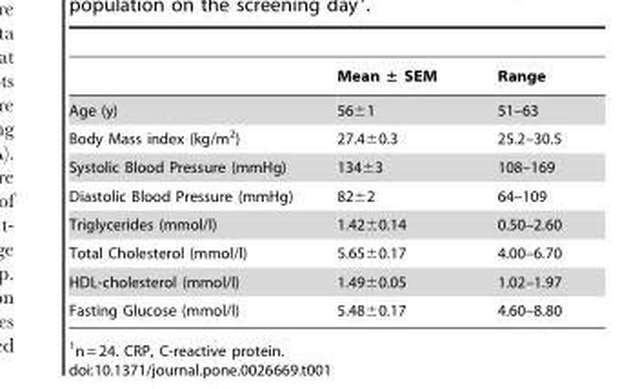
<table><thead><tr><td></td><td>Mean ± SEM</td><td>Range</td></tr></thead><tbody><tr><td>Age (y)</td><td>56±1</td><td>51–63</td></tr><tr><td>Body Mass index (kg/m<sup>2</sup>)</td><td>27.4±0.3</td><td>25.2–30.5</td></tr><tr><td>Systolic Blood Pressure (mmHg)</td><td>134±3</td><td>108–169</td></tr><tr><td>Diastolic Blood Pressure (mmHg)</td><td>82±2</td><td>64–109</td></tr><tr><td>Triglycerides (mmol/l)</td><td>1.42±0.14</td><td>0.50–2.60</td></tr><tr><td>Total Cholesterol (mmol/l)</td><td>5.65±0.17</td><td>4.00–6.70</td></tr><tr><td>HDL-cholesterol (mmol/l)</td><td>1.49±0.05</td><td>1.02–1.97</td></tr><tr><td>Fasting Glucose (mmol/l)</td><td>5.48±0.17</td><td>4.60–8.80</td></tr></tbody></table>